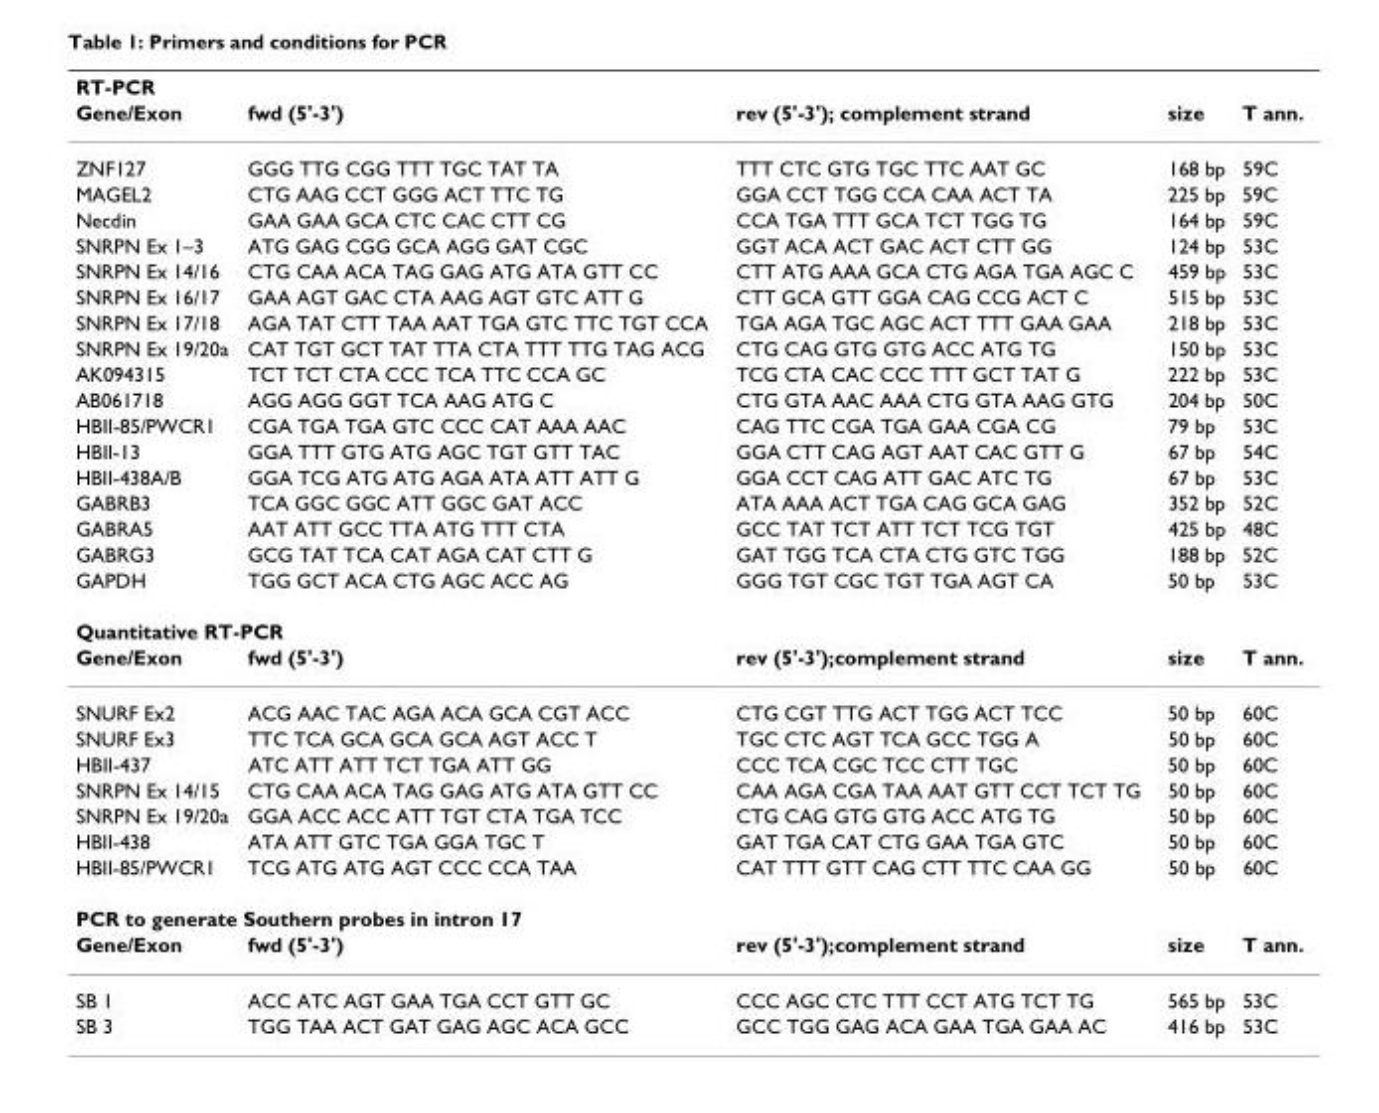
<table><thead><tr><td colspan="5">RT-PCR</td></tr><tr><td>Gene/Exon</td><td>fwd (5&#x27;-3&#x27;)</td><td>rev (5&#x27;-3&#x27;); complement strand</td><td>size</td><td>T ann.</td></tr></thead><tbody><tr><td>ZNF127</td><td>GGG TTG CGG TTT TGC TAT TA</td><td>TTT CTC GTG TGC TTC AAT GC</td><td>168 bp</td><td>59C</td></tr><tr><td>MAGEL2</td><td>CTG AAG CCT GGG ACT TTC TG</td><td>GGA CCT TGG CCA CAA ACT TA</td><td>225 bp</td><td>59C</td></tr><tr><td>Necdin</td><td>GAA GAA GCA CTC CAC CTT CG</td><td>CCA TGA TTT GCA TCT TGG TG</td><td>164 bp</td><td>59C</td></tr><tr><td>SNRPN Ex 1–3</td><td>ATG GAG CGG GCA AGG GAT CGC</td><td>GGT ACA ACT GAC ACT CTT GG</td><td>124 bp</td><td>53C</td></tr><tr><td>SNRPN Ex 14/16</td><td>CTG CAA ACA TAG GAG ATG ATA GTT CC</td><td>CTT ATG AAA GCA CTG AGA TGA AGC C</td><td>459 bp</td><td>53C</td></tr><tr><td>SNRPN Ex 16/17</td><td>GAA AGT GAC CTA AAG AGT GTC ATT G</td><td>CTT GCA GTT GGA CAG CCG ACT C</td><td>515 bp</td><td>53C</td></tr><tr><td>SNRPN Ex 17/18</td><td>AGA TAT CTT TAA AAT TGA GTC TTC TGT CCA</td><td>TGA AGA TGC AGC ACT TTT GAA GAA</td><td>218 bp</td><td>53C</td></tr><tr><td>SNRPN Ex 19/20a</td><td>CAT TGT GCT TAT TTA CTA TTT TTG TAG ACG</td><td>CTG CAG GTG GTG ACC ATG TG</td><td>150 bp</td><td>53C</td></tr><tr><td>AK094315</td><td>TCT TCT CTA CCC TCA TTC CCA GC</td><td>TCG CTA CAC CCC TTT GCT TAT G</td><td>222 bp</td><td>53C</td></tr><tr><td>AB061718</td><td>AGG AGG GGT TCA AAG ATG C</td><td>CTG GTA AAC AAA CTG GTA AAG GTG</td><td>204 bp</td><td>50C</td></tr><tr><td>HBII-85/PWCR1</td><td>CGA TGA TGA GTC CCC CAT AAA AAC</td><td>CAG TTC CGA TGA GAA CGA CG</td><td>79 bp</td><td>53C</td></tr><tr><td>HBII-13</td><td>GGA TTT GTG ATG AGC TGT GTT TAC</td><td>GGA CTT CAG AGT AAT CAC GTT G</td><td>67 bp</td><td>54C</td></tr><tr><td>HBII-438A/B</td><td>GGA TCG ATG ATG AGA ATA ATT ATT G</td><td>GGA CCT CAG ATT GAC ATC TG</td><td>67 bp</td><td>53C</td></tr><tr><td>GABRB3</td><td>TCA GGC GGC ATT GGC GAT ACC</td><td>ATA AAA ACT TGA CAG GCA GAG</td><td>352 bp</td><td>52C</td></tr><tr><td>GABRA5</td><td>AAT ATT GCC TTA ATG TTT CTA</td><td>GCC TAT TCT ATT TCT TCG TGT</td><td>425 bp</td><td>48C</td></tr><tr><td>GABRG3</td><td>GCG TAT TCA CAT AGA CAT CTT G</td><td>GAT TGG TCA CTA CTG GTC TGG</td><td>188 bp</td><td>52C</td></tr><tr><td>GAPDH</td><td>TGG GCT ACA CTG AGC ACC AG</td><td>GGG TGT CGC TGT TGA AGT CA</td><td>50 bp</td><td>53C</td></tr><tr><td colspan="5">Quantitative RT-PCR</td></tr><tr><td>Gene/Exon</td><td>fwd (5&#x27;-3&#x27;)</td><td>rev (5&#x27;-3&#x27;);complement strand</td><td>size</td><td>T ann.</td></tr><tr><td>SNURF Ex2</td><td>ACG AAC TAC AGA ACA GCA CGT ACC</td><td>CTG CGT TTG ACT TGG ACT TCC</td><td>50 bp</td><td>60C</td></tr><tr><td>SNURF Ex3</td><td>TTC TCA GCA GCA GCA AGT ACC T</td><td>TGC CTC AGT TCA GCC TGG A</td><td>50 bp</td><td>60C</td></tr><tr><td>HBII-437</td><td>ATC ATT ATT TCT TGA ATT GG</td><td>CCC TCA CGC TCC CTT TGC</td><td>50 bp</td><td>60C</td></tr><tr><td>SNRPN Ex 14/15</td><td>CTG CAA ACA TAG GAG ATG ATA GTT CC</td><td>CAA AGA CGA TAA AAT GTT CCT TCT TG</td><td>50 bp</td><td>60C</td></tr><tr><td>SNRPN Ex 19/20a</td><td>GGA ACC ACC ATT TGT CTA TGA TCC</td><td>CTG CAG GTG GTG ACC ATG TG</td><td>50 bp</td><td>60C</td></tr><tr><td>HBII-438</td><td>ATA ATT GTC TGA GGA TGC T</td><td>GAT TGA CAT CTG GAA TGA GTC</td><td>50 bp</td><td>60C</td></tr><tr><td>HBII-85/PWCR1</td><td>TCG ATG ATG AGT CCC CCA TAA</td><td>CAT TTT GTT CAG CTT TTC CAA GG</td><td>50 bp</td><td>60C</td></tr><tr><td colspan="5">PCR to generate Southern probes in intron 17</td></tr><tr><td>Gene/Exon</td><td>fwd (5&#x27;-3&#x27;)</td><td>rev (5&#x27;-3&#x27;);complement strand</td><td>size</td><td>T ann.</td></tr><tr><td>SB 1</td><td>ACC ATC AGT GAA TGA CCT GTT GC</td><td>CCC AGC CTC TTT CCT ATG TCT TG</td><td>565 bp</td><td>53C</td></tr><tr><td>SB 3</td><td>TGG TAA ACT GAT GAG AGC ACA GCC</td><td>GCC TGG GAG ACA GAA TGA GAA AC</td><td>416 bp</td><td>53C</td></tr></tbody></table>